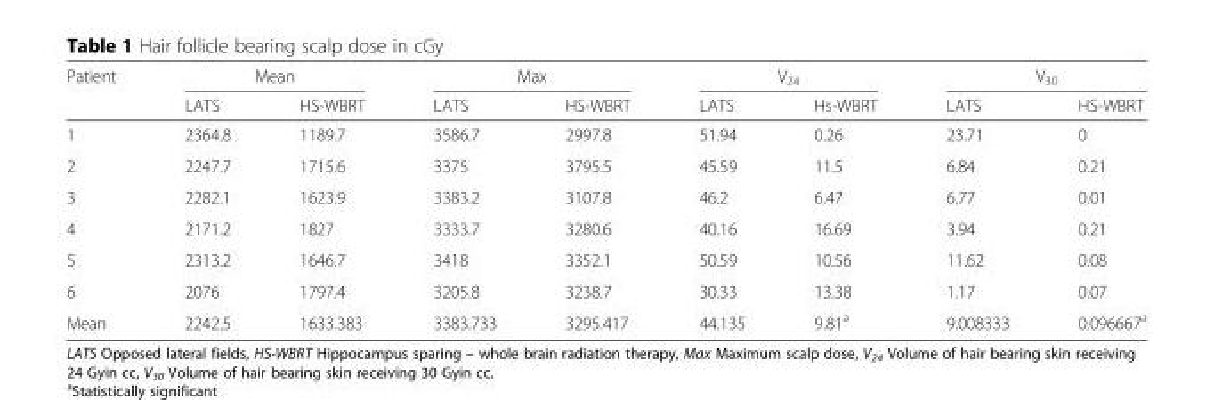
<table><thead><tr><td rowspan="2">Patient</td><td colspan="2">Mean</td><td colspan="2">Max</td><td colspan="2">V<sub>24</sub></td><td colspan="2">V<sub>30</sub></td></tr><tr><td>LATS</td><td>HS-WBRT</td><td>LATS</td><td>HS-WBRT</td><td>LATS</td><td>Hs-WBRT</td><td>LATS</td><td>HS-WBRT</td></tr></thead><tbody><tr><td>1</td><td>2364.8</td><td>1189.7</td><td>3586.7</td><td>2997.8</td><td>51.94</td><td>0.26</td><td>23.71</td><td>0</td></tr><tr><td>2</td><td>2247.7</td><td>1715.6</td><td>3375</td><td>3795.5</td><td>45.59</td><td>11.5</td><td>6.84</td><td>0.21</td></tr><tr><td>3</td><td>2282.1</td><td>1623.9</td><td>3383.2</td><td>3107.8</td><td>46.2</td><td>6.47</td><td>6.77</td><td>0.01</td></tr><tr><td>4</td><td>2171.2</td><td>1827</td><td>3333.7</td><td>3280.6</td><td>40.16</td><td>16.69</td><td>3.94</td><td>0.21</td></tr><tr><td>5</td><td>2313.2</td><td>1646.7</td><td>3418</td><td>3352.1</td><td>50.59</td><td>10.56</td><td>11.62</td><td>0.08</td></tr><tr><td>6</td><td>2076</td><td>1797.4</td><td>3205.8</td><td>3238.7</td><td>30.33</td><td>13.38</td><td>1.17</td><td>0.07</td></tr><tr><td>Mean</td><td>2242.5</td><td>1633.383</td><td>3383.733</td><td>3295.417</td><td>44.135</td><td>9.81<sup>a</sup></td><td>9.008333</td><td>0.096667<sup>a</sup></td></tr></tbody></table>